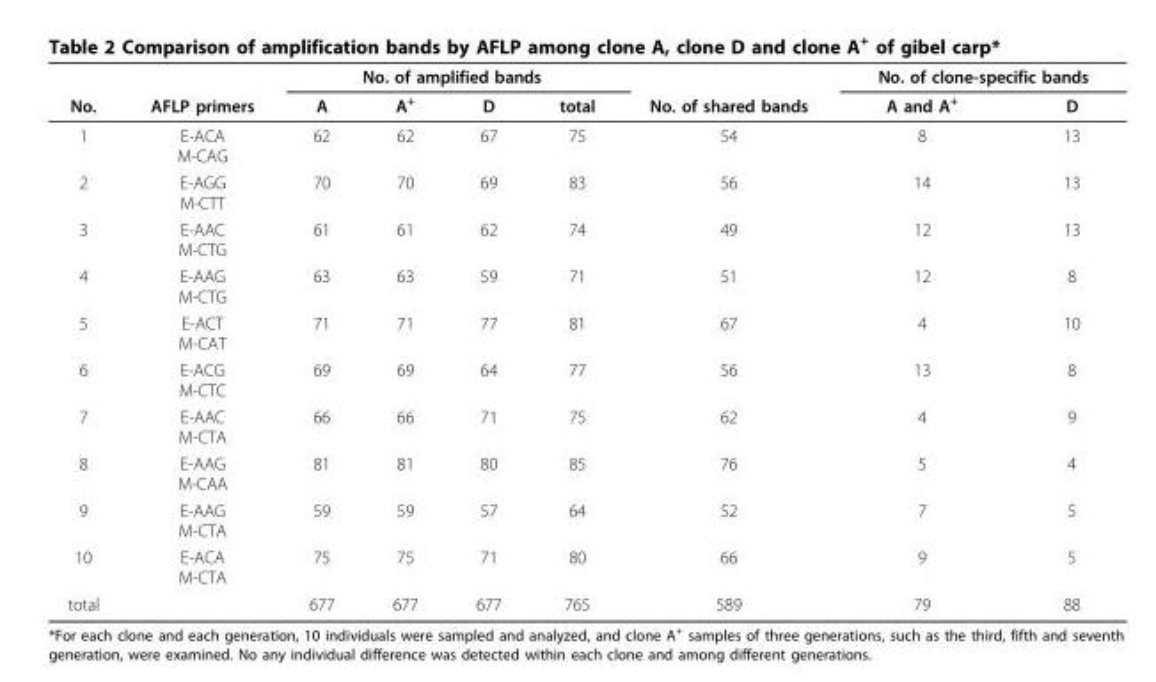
<table><thead><tr><td rowspan="2">No.</td><td rowspan="2">AFLP primers</td><td colspan="4">No. of amplified bands</td><td rowspan="2">No. of shared bands</td><td colspan="2">No. of clone-specific bands</td></tr><tr><td>A</td><td>A<sup>+</sup></td><td>D</td><td>total</td><td>A and A<sup>+</sup></td><td>D</td></tr></thead><tbody><tr><td>1</td><td>E-ACA M-CAG</td><td>62</td><td>62</td><td>67</td><td>75</td><td>54</td><td>8</td><td>13</td></tr><tr><td>2</td><td>E-AGG M-CTT</td><td>70</td><td>70</td><td>69</td><td>83</td><td>56</td><td>14</td><td>13</td></tr><tr><td>3</td><td>E-AAC M-CTG</td><td>61</td><td>61</td><td>62</td><td>74</td><td>49</td><td>12</td><td>13</td></tr><tr><td>4</td><td>E-AAG M-CTG</td><td>63</td><td>63</td><td>59</td><td>71</td><td>51</td><td>12</td><td>8</td></tr><tr><td>5</td><td>E-ACT M-CAT</td><td>71</td><td>71</td><td>77</td><td>81</td><td>67</td><td>4</td><td>10</td></tr><tr><td>6</td><td>E-ACG M-CTC</td><td>69</td><td>69</td><td>64</td><td>77</td><td>56</td><td>13</td><td>8</td></tr><tr><td>7</td><td>E-AAC M-CTA</td><td>66</td><td>66</td><td>71</td><td>75</td><td>62</td><td>4</td><td>9</td></tr><tr><td>8</td><td>E-AAG M-CAA</td><td>81</td><td>81</td><td>80</td><td>85</td><td>76</td><td>5</td><td>4</td></tr><tr><td>9</td><td>E-AAG M-CTA</td><td>59</td><td>59</td><td>57</td><td>64</td><td>52</td><td>7</td><td>5</td></tr><tr><td>10</td><td>E-ACA M-CTA</td><td>75</td><td>75</td><td>71</td><td>80</td><td>66</td><td>9</td><td>5</td></tr><tr><td>total</td><td></td><td>677</td><td>677</td><td>677</td><td>765</td><td>589</td><td>79</td><td>88</td></tr></tbody></table>